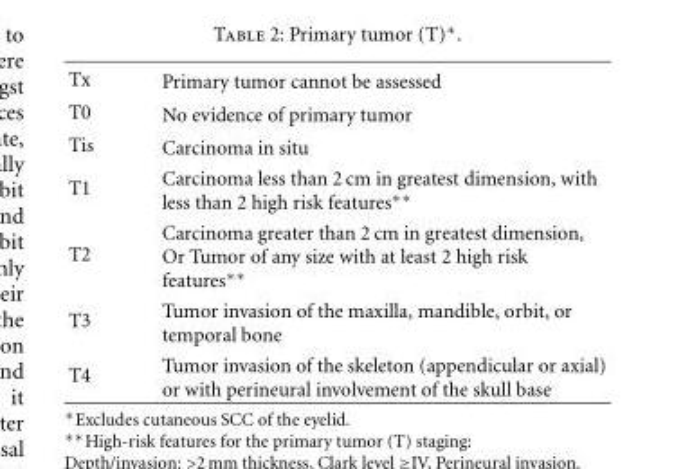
<table><tbody><tr><td>Tx</td><td>Primary tumor cannot be assessed</td></tr><tr><td>T0</td><td>No evidence of primary tumor</td></tr><tr><td>Tis</td><td>Carcinoma in situ</td></tr><tr><td>T1</td><td>Carcinoma less than 2 cm in greatest dimension, with less than 2 high risk features∗∗</td></tr><tr><td>T2</td><td>Carcinoma greater than 2 cm in greatest dimension, Or Tumor of any size with at least 2 high risk features∗∗</td></tr><tr><td>T3</td><td>Tumor invasion of the maxilla, mandible, orbit, or temporal bone</td></tr><tr><td>T4</td><td>Tumor invasion of the skeleton (appendicular or axial) or with perineural involvement of the skull base</td></tr></tbody></table>